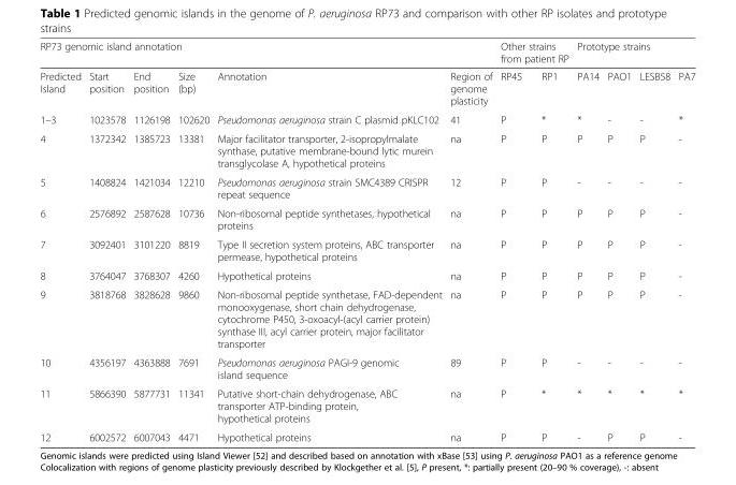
<table><thead><tr><td colspan="6">RP73 genomic island annotation</td><td colspan="2">Other strains from patient RP</td><td colspan="4">Prototype strains</td></tr><tr><td>Predicted Island</td><td>Start position</td><td>End position</td><td>Size (bp)</td><td>Annotation</td><td>Region of genome plasticity</td><td>RP45</td><td>RP1</td><td>PA14</td><td>PAO1</td><td>LESB58</td><td>PA7</td></tr></thead><tbody><tr><td>1–3</td><td>1023578</td><td>1126198</td><td>102620</td><td>Pseudomonas aeruginosa strain C plasmid pKLC102</td><td>41</td><td>P</td><td>*</td><td>*</td><td>-</td><td>-</td><td>*</td></tr><tr><td>4</td><td>1372342</td><td>1385723</td><td>13381</td><td>Major facilitator transporter, 2-isopropylmalate synthase, putative membrane-bound lytic murein transglycolase A, hypothetical proteins</td><td>na</td><td>P</td><td>P</td><td>P</td><td>P</td><td>P</td><td>-</td></tr><tr><td>5</td><td>1408824</td><td>1421034</td><td>12210</td><td>Pseudomonas aeruginosa strain SMC4389 CRISPR repeat sequence</td><td>12</td><td>P</td><td>P</td><td>-</td><td>-</td><td>-</td><td>-</td></tr><tr><td>6</td><td>2576892</td><td>2587628</td><td>10736</td><td>Non-ribosomal peptide synthetases, hypothetical proteins</td><td>na</td><td>P</td><td>P</td><td>P</td><td>P</td><td>P</td><td>-</td></tr><tr><td>7</td><td>3092401</td><td>3101220</td><td>8819</td><td>Type II secretion system proteins, ABC transporter permease, hypothetical proteins</td><td>na</td><td>P</td><td>P</td><td>P</td><td>P</td><td>P</td><td>-</td></tr><tr><td>8</td><td>3764047</td><td>3768307</td><td>4260</td><td>Hypothetical proteins</td><td>na</td><td>P</td><td>P</td><td>P</td><td>P</td><td>P</td><td>-</td></tr><tr><td>9</td><td>3818768</td><td>3828628</td><td>9860</td><td>Non-ribosomal peptide synthetase, FAD-dependent monooxygenase, short chain dehydrogenase, cytochrome P450, 3-oxoacyl-(acyl carrier protein) synthase III, acyl carrier protein, major facilitator transporter</td><td>na</td><td>P</td><td>P</td><td>P</td><td>P</td><td>P</td><td>-</td></tr><tr><td>10</td><td>4356197</td><td>4363888</td><td>7691</td><td>Pseudomonas aeruginosa PAGI-9 genomic island sequence</td><td>89</td><td>P</td><td>P</td><td>-</td><td>-</td><td>-</td><td>-</td></tr><tr><td>11</td><td>5866390</td><td>5877731</td><td>11341</td><td>Putative short-chain dehydrogenase, ABC transporter ATP-binding protein, hypothetical proteins</td><td>na</td><td>P</td><td>*</td><td>*</td><td>*</td><td>*</td><td>*</td></tr><tr><td>12</td><td>6002572</td><td>6007043</td><td>4471</td><td>Hypothetical proteins</td><td>na</td><td>P</td><td>P</td><td>-</td><td>P</td><td>P</td><td>-</td></tr></tbody></table>